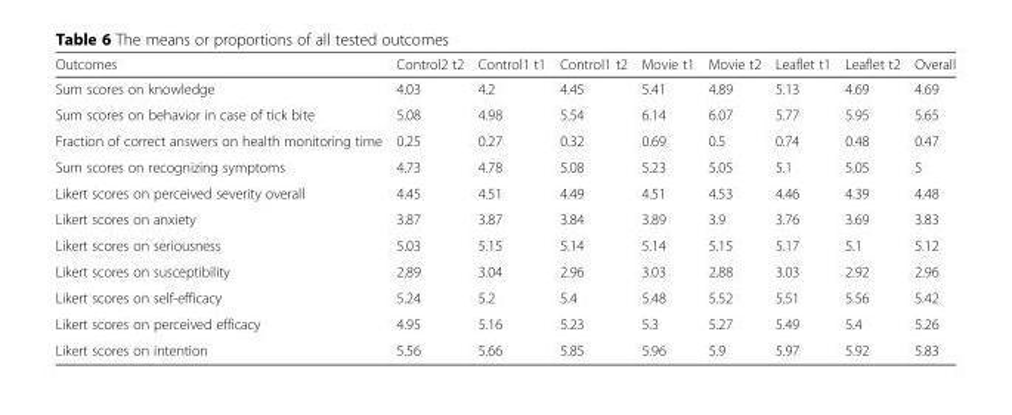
<table><thead><tr><td>Outcomes</td><td>Control2 t2</td><td>Control1 t1</td><td>Control1 t2</td><td>Movie t1</td><td>Movie t2</td><td>Leaflet t1</td><td>Leaflet t2</td><td>Overall</td></tr></thead><tbody><tr><td>Sum scores on knowledge</td><td>4.03</td><td>4.2</td><td>4.45</td><td>5.41</td><td>4.89</td><td>5.13</td><td>4.69</td><td>4.69</td></tr><tr><td>Sum scores on behavior in case of tick bite</td><td>5.08</td><td>4.98</td><td>5.54</td><td>6.14</td><td>6.07</td><td>5.77</td><td>5.95</td><td>5.65</td></tr><tr><td>Fraction of correct answers on health monitoring time</td><td>0.25</td><td>0.27</td><td>0.32</td><td>0.69</td><td>0.5</td><td>0.74</td><td>0.48</td><td>0.47</td></tr><tr><td>Sum scores on recognizing symptoms</td><td>4.73</td><td>4.78</td><td>5.08</td><td>5.23</td><td>5.05</td><td>5.1</td><td>5.05</td><td>5</td></tr><tr><td>Likert scores on perceived severity overall</td><td>4.45</td><td>4.51</td><td>4.49</td><td>4.51</td><td>4.53</td><td>4.46</td><td>4.39</td><td>4.48</td></tr><tr><td>Likert scores on anxiety</td><td>3.87</td><td>3.87</td><td>3.84</td><td>3.89</td><td>3.9</td><td>3.76</td><td>3.69</td><td>3.83</td></tr><tr><td>Likert scores on seriousness</td><td>5.03</td><td>5.15</td><td>5.14</td><td>5.14</td><td>5.15</td><td>5.17</td><td>5.1</td><td>5.12</td></tr><tr><td>Likert scores on susceptibility</td><td>2.89</td><td>3.04</td><td>2.96</td><td>3.03</td><td>2.88</td><td>3.03</td><td>2.92</td><td>2.96</td></tr><tr><td>Likert scores on self-efficacy</td><td>5.24</td><td>5.2</td><td>5.4</td><td>5.48</td><td>5.52</td><td>5.51</td><td>5.56</td><td>5.42</td></tr><tr><td>Likert scores on perceived efficacy</td><td>4.95</td><td>5.16</td><td>5.23</td><td>5.3</td><td>5.27</td><td>5.49</td><td>5.4</td><td>5.26</td></tr><tr><td>Likert scores on intention</td><td>5.56</td><td>5.66</td><td>5.85</td><td>5.96</td><td>5.9</td><td>5.97</td><td>5.92</td><td>5.83</td></tr></tbody></table>